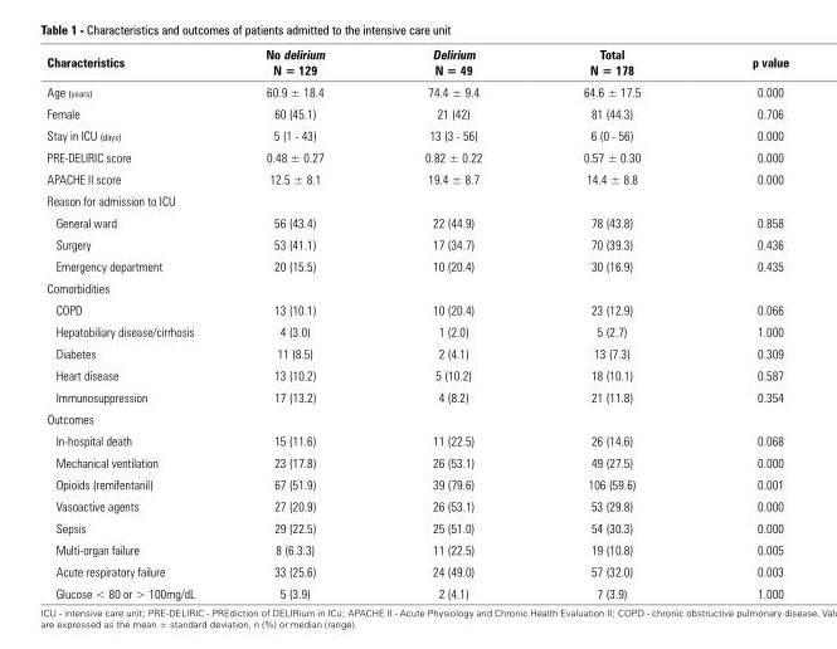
<table><thead><tr><td>Characteristics</td><td>No delirium N = 129</td><td>Delirium N = 49</td><td>Total N = 178</td><td>p value</td></tr></thead><tbody><tr><td>Age (years)</td><td>60.9 ± 18.4</td><td>74.4 ± 9.4</td><td>64.6 ± 17.5</td><td>0.000</td></tr><tr><td>Female</td><td>60 (45.1)</td><td>21 (42)</td><td>81 (44.3)</td><td>0.706</td></tr><tr><td>Stay in ICU (days)</td><td>5 (1 - 43)</td><td>13 (3 - 56)</td><td>6 (0 - 56)</td><td>0.000</td></tr><tr><td>PRE-DELIRIC score</td><td>0.48 ± 0.27</td><td>0.82 ± 0.22</td><td>0.57 ± 0.30</td><td>0.000</td></tr><tr><td>APACHE II score</td><td>12.5 ± 8.1</td><td>19.4 ± 8.7</td><td>14.4 ± 8.8</td><td>0.000</td></tr><tr><td colspan="5">Reason for admission to ICU</td></tr><tr><td>General ward</td><td>56 (43.4)</td><td>22 (44.9)</td><td>78 (43.8)</td><td>0.858</td></tr><tr><td>Surgery</td><td>53 (41.1)</td><td>17 (34.7)</td><td>70 (39.3)</td><td>0.436</td></tr><tr><td>Emergency department</td><td>20 (15.5)</td><td>10 (20.4)</td><td>30 (16.9)</td><td>0.435</td></tr><tr><td colspan="5">Comorbidities</td></tr><tr><td>COPD</td><td>13 (10.1)</td><td>10 (20.4)</td><td>23 (12.9)</td><td>0.066</td></tr><tr><td>Hepatobiliary disease/cirrhosis</td><td>4 (3.0)</td><td>1 (2.0)</td><td>5 (2.7)</td><td>1.000</td></tr><tr><td>Diabetes</td><td>11 (8.5)</td><td>2 (4.1)</td><td>13 (7.3)</td><td>0.309</td></tr><tr><td>Heart disease</td><td>13 (10.2)</td><td>5 (10.2)</td><td>18 (10.1)</td><td>0.587</td></tr><tr><td>Immunosuppression</td><td>17 (13.2)</td><td>4 (8.2)</td><td>21 (11.8)</td><td>0.354</td></tr><tr><td colspan="5">Outcomes</td></tr><tr><td>In-hospital death</td><td>15 (11.6)</td><td>11 (22.5)</td><td>26 (14.6)</td><td>0.068</td></tr><tr><td>Mechanical ventilation</td><td>23 (17.8)</td><td>26 (53.1)</td><td>49 (27.5)</td><td>0.000</td></tr><tr><td>Opioids (remifentanil)</td><td>67 (51.9)</td><td>39 (79.6)</td><td>106 (59.6)</td><td>0.001</td></tr><tr><td>Vasoactive agents</td><td>27 (20.9)</td><td>26 (53.1)</td><td>53 (29.8)</td><td>0.000</td></tr><tr><td>Sepsis</td><td>29 (22.5)</td><td>25 (51.0)</td><td>54 (30.3)</td><td>0.000</td></tr><tr><td>Multi-organ failure</td><td>8 (6.3.3)</td><td>11 (22.5)</td><td>19 (10.8)</td><td>0.005</td></tr><tr><td>Acute respiratory failure</td><td>33 (25.6)</td><td>24 (49.0)</td><td>57 (32.0)</td><td>0.003</td></tr><tr><td>Glucose &lt; 80 or &gt; 100mg/dL</td><td>5 (3.9)</td><td>2 (4.1)</td><td>7 (3.9)</td><td>1.000</td></tr></tbody></table>